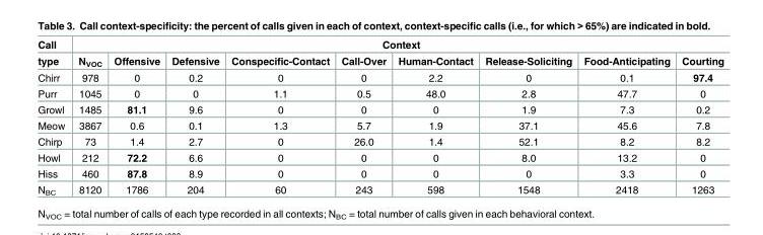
<table><thead><tr><td rowspan="2">Call type</td><td colspan="9">Context</td></tr><tr><td>N<sub>VOC</sub></td><td>Offensive</td><td>Defensive</td><td>Conspecific-Contact</td><td>Call-Over</td><td>Human-Contact</td><td>Release-Soliciting</td><td>Food-Anticipating</td><td>Courting</td></tr></thead><tbody><tr><td>Chirr</td><td>978</td><td>0</td><td>0.2</td><td>0</td><td>0</td><td>2.2</td><td>0</td><td>0.1</td><td>97.4</td></tr><tr><td>Purr</td><td>1045</td><td>0</td><td>0</td><td>1.1</td><td>0.5</td><td>48.0</td><td>2.8</td><td>47.7</td><td>0</td></tr><tr><td>Growl</td><td>1485</td><td>81.1</td><td>9.6</td><td>0</td><td>0</td><td>0</td><td>1.9</td><td>7.3</td><td>0.2</td></tr><tr><td>Meow</td><td>3867</td><td>0.6</td><td>0.1</td><td>1.3</td><td>5.7</td><td>1.9</td><td>37.1</td><td>45.6</td><td>7.8</td></tr><tr><td>Chirp</td><td>73</td><td>1.4</td><td>2.7</td><td>0</td><td>26.0</td><td>1.4</td><td>52.1</td><td>8.2</td><td>8.2</td></tr><tr><td>Howl</td><td>212</td><td>72.2</td><td>6.6</td><td>0</td><td>0</td><td>0</td><td>8.0</td><td>13.2</td><td>0</td></tr><tr><td>Hiss</td><td>460</td><td>87.8</td><td>8.9</td><td>0</td><td>0</td><td>0</td><td>0</td><td>3.3</td><td>0</td></tr><tr><td>N<sub>BC</sub></td><td>8120</td><td>1786</td><td>204</td><td>60</td><td>243</td><td>598</td><td>1548</td><td>2418</td><td>1263</td></tr></tbody></table>